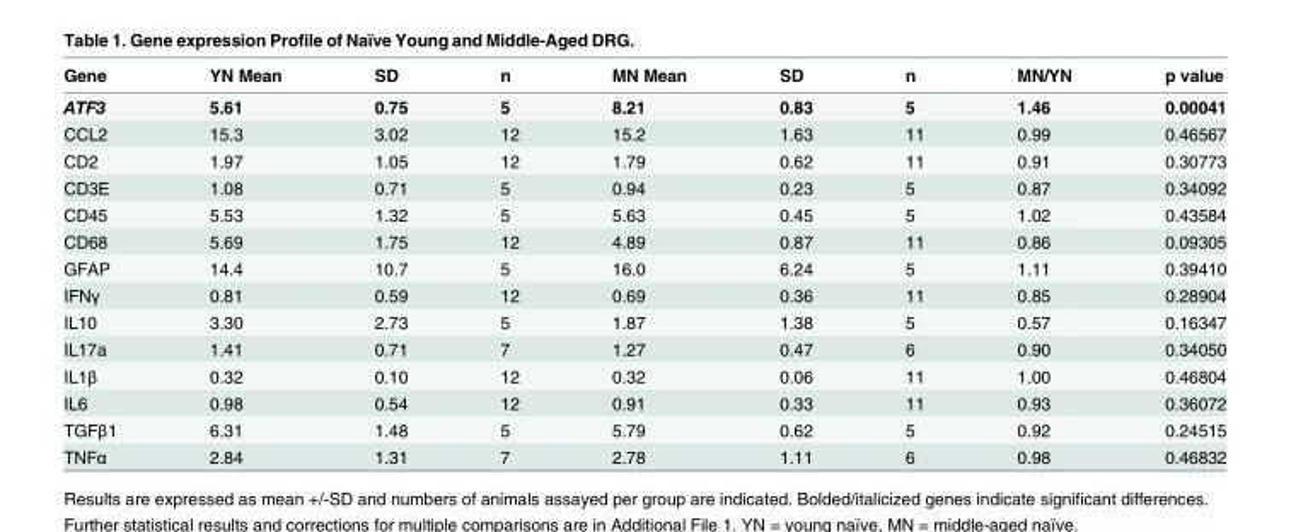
<table><thead><tr><td>Gene</td><td>YN Mean</td><td>SD</td><td>n</td><td>MN Mean</td><td>SD</td><td>n</td><td>MN/YN</td><td>p value</td></tr></thead><tbody><tr><td>ATF3</td><td>5.61</td><td>0.75</td><td>5</td><td>8.21</td><td>0.83</td><td>5</td><td>1.46</td><td>0.00041</td></tr><tr><td>CCL2</td><td>15.3</td><td>3.02</td><td>12</td><td>15.2</td><td>1.63</td><td>11</td><td>0.99</td><td>0.46567</td></tr><tr><td>CD2</td><td>1.97</td><td>1.05</td><td>12</td><td>1.79</td><td>0.62</td><td>11</td><td>0.91</td><td>0.30773</td></tr><tr><td>CD3E</td><td>1.08</td><td>0.71</td><td>5</td><td>0.94</td><td>0.23</td><td>5</td><td>0.87</td><td>0.34092</td></tr><tr><td>CD45</td><td>5.53</td><td>1.32</td><td>5</td><td>5.63</td><td>0.45</td><td>5</td><td>1.02</td><td>0.43584</td></tr><tr><td>CD68</td><td>5.69</td><td>1.75</td><td>12</td><td>4.89</td><td>0.87</td><td>11</td><td>0.86</td><td>0.09305</td></tr><tr><td>GFAP</td><td>14.4</td><td>10.7</td><td>5</td><td>16.0</td><td>6.24</td><td>5</td><td>1.11</td><td>0.39410</td></tr><tr><td>IFNγ</td><td>0.81</td><td>0.59</td><td>12</td><td>0.69</td><td>0.36</td><td>11</td><td>0.85</td><td>0.28904</td></tr><tr><td>IL10</td><td>3.30</td><td>2.73</td><td>5</td><td>1.87</td><td>1.38</td><td>5</td><td>0.57</td><td>0.16347</td></tr><tr><td>IL17a</td><td>1.41</td><td>0.71</td><td>7</td><td>1.27</td><td>0.47</td><td>6</td><td>0.90</td><td>0.34050</td></tr><tr><td>IL1β</td><td>0.32</td><td>0.10</td><td>12</td><td>0.32</td><td>0.06</td><td>11</td><td>1.00</td><td>0.46804</td></tr><tr><td>IL6</td><td>0.98</td><td>0.54</td><td>12</td><td>0.91</td><td>0.33</td><td>11</td><td>0.93</td><td>0.36072</td></tr><tr><td>TGFβ1</td><td>6.31</td><td>1.48</td><td>5</td><td>5.79</td><td>0.62</td><td>5</td><td>0.92</td><td>0.24515</td></tr><tr><td>TNFα</td><td>2.84</td><td>1.31</td><td>7</td><td>2.78</td><td>1.11</td><td>6</td><td>0.98</td><td>0.46832</td></tr></tbody></table>